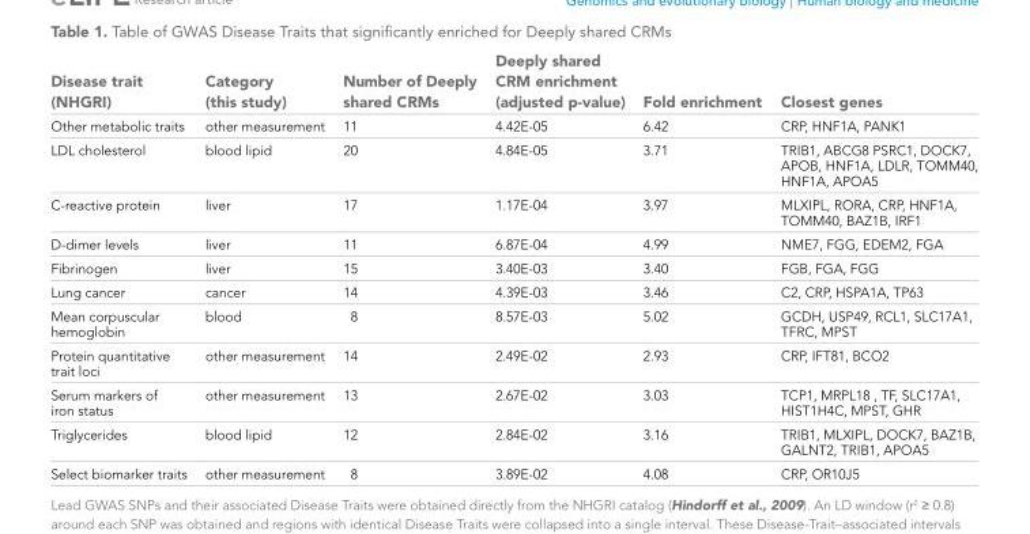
<table><thead><tr><td>Disease trait (NHGRI)</td><td>Category (this study)</td><td>Number of Deeply shared CRMs</td><td>Deeply shared CRM enrichment (adjusted p-value)</td><td>Fold enrichment</td><td>Closest genes</td></tr></thead><tbody><tr><td>Other metabolic traits</td><td>other measurement</td><td>11</td><td>4.42E-05</td><td>6.42</td><td>CRP, HNF1A, PANK1</td></tr><tr><td>LDL cholesterol</td><td>blood lipid</td><td>20</td><td>4.84E-05</td><td>3.71</td><td>TRIB1, ABCG8 PSRC1, DOCK7, APOB, HNF1A, LDLR, TOMM40, HNF1A, APOA5</td></tr><tr><td>C-reactive protein</td><td>liver</td><td>17</td><td>1.17E-04</td><td>3.97</td><td>MLXIPL, RORA, CRP, HNF1A, TOMM40, BAZ1B, IRF1</td></tr><tr><td>D-dimer levels</td><td>liver</td><td>11</td><td>6.87E-04</td><td>4.99</td><td>NME7, FGG, EDEM2, FGA</td></tr><tr><td>Fibrinogen</td><td>liver</td><td>15</td><td>3.40E-03</td><td>3.40</td><td>FGB, FGA, FGG</td></tr><tr><td>Lung cancer</td><td>cancer</td><td>14</td><td>4.39E-03</td><td>3.46</td><td>C2, CRP, HSPA1A, TP63</td></tr><tr><td>Mean corpuscular hemoglobin</td><td>blood</td><td>8</td><td>8.57E-03</td><td>5.02</td><td>GCDH, USP49, RCL1, SLC17A1, TFRC, MPST</td></tr><tr><td>Protein quantitative trait loci</td><td>other measurement</td><td>14</td><td>2.49E-02</td><td>2.93</td><td>CRP, IFT81, BCO2</td></tr><tr><td>Serum markers of iron status</td><td>other measurement</td><td>13</td><td>2.67E-02</td><td>3.03</td><td>TCP1, MRPL18 , TF, SLC17A1, HIST1H4C, MPST, GHR</td></tr><tr><td>Triglycerides</td><td>blood lipid</td><td>12</td><td>2.84E-02</td><td>3.16</td><td>TRIB1, MLXIPL, DOCK7, BAZ1B, GALNT2, TRIB1, APOA5</td></tr><tr><td>Select biomarker traits</td><td>other measurement</td><td>8</td><td>3.89E-02</td><td>4.08</td><td>CRP, OR10J5</td></tr></tbody></table>